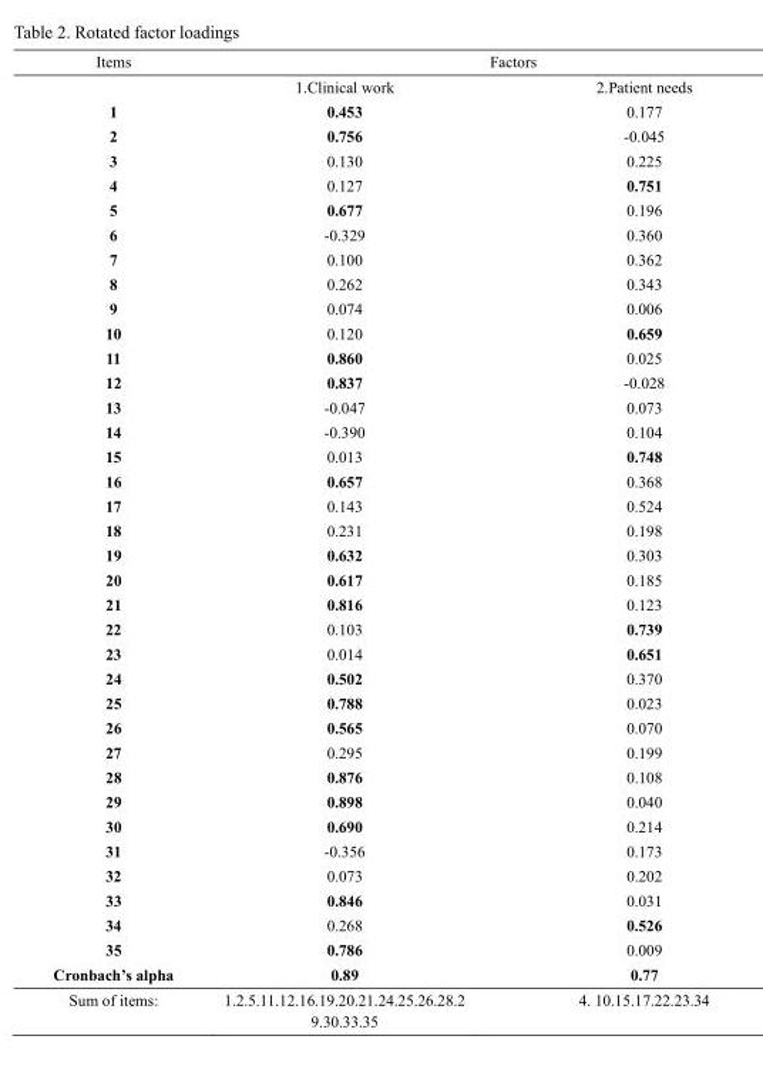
<table><thead><tr><td rowspan="2">Items</td><td colspan="2">Factors</td></tr><tr><td>1.Clinical work</td><td>2.Patient needs</td></tr></thead><tbody><tr><td>1</td><td>0.453</td><td>0.177</td></tr><tr><td>2</td><td>0.756</td><td>-0.045</td></tr><tr><td>3</td><td>0.130</td><td>0.225</td></tr><tr><td>4</td><td>0.127</td><td>0.751</td></tr><tr><td>5</td><td>0.677</td><td>0.196</td></tr><tr><td>6</td><td>-0.329</td><td>0.360</td></tr><tr><td>7</td><td>0.100</td><td>0.362</td></tr><tr><td>8</td><td>0.262</td><td>0.343</td></tr><tr><td>9</td><td>0.074</td><td>0.006</td></tr><tr><td>10</td><td>0.120</td><td>0.659</td></tr><tr><td>11</td><td>0.860</td><td>0.025</td></tr><tr><td>12</td><td>0.837</td><td>-0.028</td></tr><tr><td>13</td><td>-0.047</td><td>0.073</td></tr><tr><td>14</td><td>-0.390</td><td>0.104</td></tr><tr><td>15</td><td>0.013</td><td>0.748</td></tr><tr><td>16</td><td>0.657</td><td>0.368</td></tr><tr><td>17</td><td>0.143</td><td>0.524</td></tr><tr><td>18</td><td>0.231</td><td>0.198</td></tr><tr><td>19</td><td>0.632</td><td>0.303</td></tr><tr><td>20</td><td>0.617</td><td>0.185</td></tr><tr><td>21</td><td>0.816</td><td>0.123</td></tr><tr><td>22</td><td>0.103</td><td>0.739</td></tr><tr><td>23</td><td>0.014</td><td>0.651</td></tr><tr><td>24</td><td>0.502</td><td>0.370</td></tr><tr><td>25</td><td>0.788</td><td>0.023</td></tr><tr><td>26</td><td>0.565</td><td>0.070</td></tr><tr><td>27</td><td>0.295</td><td>0.199</td></tr><tr><td>28</td><td>0.876</td><td>0.108</td></tr><tr><td>29</td><td>0.898</td><td>0.040</td></tr><tr><td>30</td><td>0.690</td><td>0.214</td></tr><tr><td>31</td><td>-0.356</td><td>0.173</td></tr><tr><td>32</td><td>0.073</td><td>0.202</td></tr><tr><td>33</td><td>0.846</td><td>0.031</td></tr><tr><td>34</td><td>0.268</td><td>0.526</td></tr><tr><td>35</td><td>0.786</td><td>0.009</td></tr><tr><td>Cronbach’s alpha</td><td>0.89</td><td>0.77</td></tr><tr><td>Sum of items:</td><td>1.2.5.11.12.16.19.20.21.24.25.26.28.2 9.30.33.35</td><td>4. 10.15.17.22.23.34</td></tr></tbody></table>